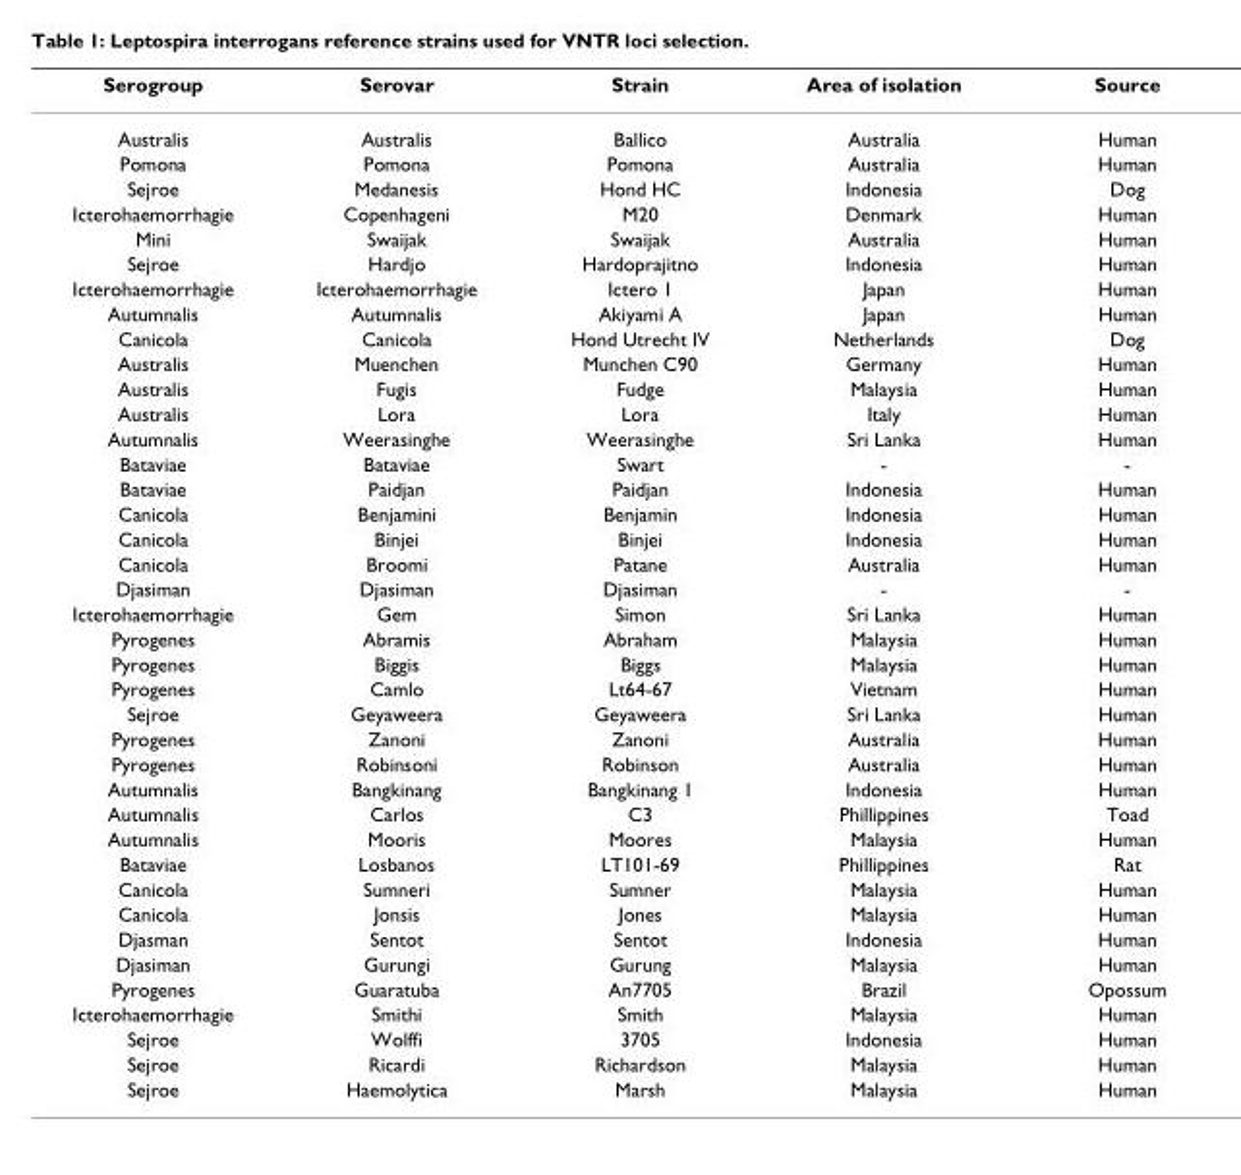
<table><thead><tr><td>Serogroup</td><td>Serovar</td><td>Strain</td><td>Area of isolation</td><td>Source</td></tr></thead><tbody><tr><td>Australis</td><td>Australis</td><td>Ballico</td><td>Australia</td><td>Human</td></tr><tr><td>Pomona</td><td>Pomona</td><td>Pomona</td><td>Australia</td><td>Human</td></tr><tr><td>Sejroe</td><td>Medanesis</td><td>Hond HC</td><td>Indonesia</td><td>Dog</td></tr><tr><td>Icterohaemorrhagie</td><td>Copenhageni</td><td>M20</td><td>Denmark</td><td>Human</td></tr><tr><td>Mini</td><td>Swaijak</td><td>Swaijak</td><td>Australia</td><td>Human</td></tr><tr><td>Sejroe</td><td>Hardjo</td><td>Hardoprajitno</td><td>Indonesia</td><td>Human</td></tr><tr><td>Icterohaemorrhagie</td><td>Icterohaemorrhagie</td><td>Ictero 1</td><td>Japan</td><td>Human</td></tr><tr><td>Autumnalis</td><td>Autumnalis</td><td>Akiyami A</td><td>Japan</td><td>Human</td></tr><tr><td>Canicola</td><td>Canicola</td><td>Hond Utrecht IV</td><td>Netherlands</td><td>Dog</td></tr><tr><td>Australis</td><td>Muenchen</td><td>Munchen C90</td><td>Germany</td><td>Human</td></tr><tr><td>Australis</td><td>Fugis</td><td>Fudge</td><td>Malaysia</td><td>Human</td></tr><tr><td>Australis</td><td>Lora</td><td>Lora</td><td>Italy</td><td>Human</td></tr><tr><td>Autumnalis</td><td>Weerasinghe</td><td>Weerasinghe</td><td>Sri Lanka</td><td>Human</td></tr><tr><td>Bataviae</td><td>Bataviae</td><td>Swart</td><td>-</td><td>-</td></tr><tr><td>Bataviae</td><td>Paidjan</td><td>Paidjan</td><td>Indonesia</td><td>Human</td></tr><tr><td>Canicola</td><td>Benjamini</td><td>Benjamin</td><td>Indonesia</td><td>Human</td></tr><tr><td>Canicola</td><td>Binjei</td><td>Binjei</td><td>Indonesia</td><td>Human</td></tr><tr><td>Canicola</td><td>Broomi</td><td>Patane</td><td>Australia</td><td>Human</td></tr><tr><td>Djasiman</td><td>Djasiman</td><td>Djasiman</td><td>-</td><td>-</td></tr><tr><td>Icterohaemorrhagie</td><td>Gem</td><td>Simon</td><td>Sri Lanka</td><td>Human</td></tr><tr><td>Pyrogenes</td><td>Abramis</td><td>Abraham</td><td>Malaysia</td><td>Human</td></tr><tr><td>Pyrogenes</td><td>Biggis</td><td>Biggs</td><td>Malaysia</td><td>Human</td></tr><tr><td>Pyrogenes</td><td>Camlo</td><td>Lt64-67</td><td>Vietnam</td><td>Human</td></tr><tr><td>Sejroe</td><td>Geyaweera</td><td>Geyaweera</td><td>Sri Lanka</td><td>Human</td></tr><tr><td>Pyrogenes</td><td>Zanoni</td><td>Zanoni</td><td>Australia</td><td>Human</td></tr><tr><td>Pyrogenes</td><td>Robinsoni</td><td>Robinson</td><td>Australia</td><td>Human</td></tr><tr><td>Autumnalis</td><td>Bangkinang</td><td>Bangkinang 1</td><td>Indonesia</td><td>Human</td></tr><tr><td>Autumnalis</td><td>Carlos</td><td>C3</td><td>Phillippines</td><td>Toad</td></tr><tr><td>Autumnalis</td><td>Mooris</td><td>Moores</td><td>Malaysia</td><td>Human</td></tr><tr><td>Bataviae</td><td>Losbanos</td><td>LT101-69</td><td>Phillippines</td><td>Rat</td></tr><tr><td>Canicola</td><td>Sumneri</td><td>Sumner</td><td>Malaysia</td><td>Human</td></tr><tr><td>Canicola</td><td>Jonsis</td><td>Jones</td><td>Malaysia</td><td>Human</td></tr><tr><td>Djasman</td><td>Sentot</td><td>Sentot</td><td>Indonesia</td><td>Human</td></tr><tr><td>Djasiman</td><td>Gurungi</td><td>Gurung</td><td>Malaysia</td><td>Human</td></tr><tr><td>Pyrogenes</td><td>Guaratuba</td><td>An7705</td><td>Brazil</td><td>Opossum</td></tr><tr><td>Icterohaemorrhagie</td><td>Smithi</td><td>Smith</td><td>Malaysia</td><td>Human</td></tr><tr><td>Sejroe</td><td>Wolffi</td><td>3705</td><td>Indonesia</td><td>Human</td></tr><tr><td>Sejroe</td><td>Ricardi</td><td>Richardson</td><td>Malaysia</td><td>Human</td></tr><tr><td>Sejroe</td><td>Haemolytica</td><td>Marsh</td><td>Malaysia</td><td>Human</td></tr></tbody></table>